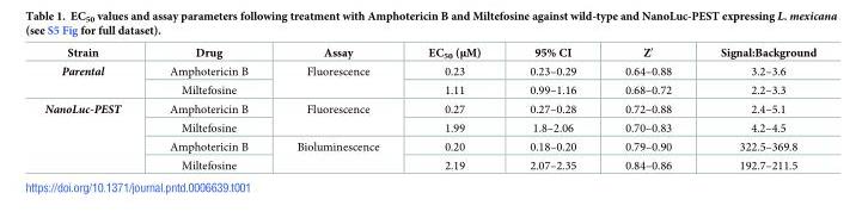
<table><thead><tr><td>Strain</td><td>Drug</td><td>Assay</td><td>EC<sub>50</sub> (μM)</td><td>95% CI</td><td>Zʹ</td><td>Signal:Background</td></tr></thead><tbody><tr><td rowspan="2">Parental</td><td>Amphotericin B</td><td rowspan="2">Fluorescence</td><td>0.23</td><td>0.23–0.29</td><td>0.64–0.88</td><td>3.2–3.6</td></tr><tr><td>Miltefosine</td><td>1.11</td><td>0.99–1.16</td><td>0.68–0.72</td><td>2.2–3.3</td></tr><tr><td rowspan="4">NanoLuc-PEST</td><td>Amphotericin B</td><td rowspan="2">Fluorescence</td><td>0.27</td><td>0.27–0.28</td><td>0.72–0.88</td><td>2.4–5.1</td></tr><tr><td>Miltefosine</td><td>1.99</td><td>1.8–2.06</td><td>0.70–0.83</td><td>4.2–4.5</td></tr><tr><td>Amphotericin B</td><td rowspan="2">Bioluminescence</td><td>0.20</td><td>0.18–0.20</td><td>0.79–0.90</td><td>322.5–369.8</td></tr><tr><td>Miltefosine</td><td>2.19</td><td>2.07–2.35</td><td>0.84–0.86</td><td>192.7–211.5</td></tr></tbody></table>